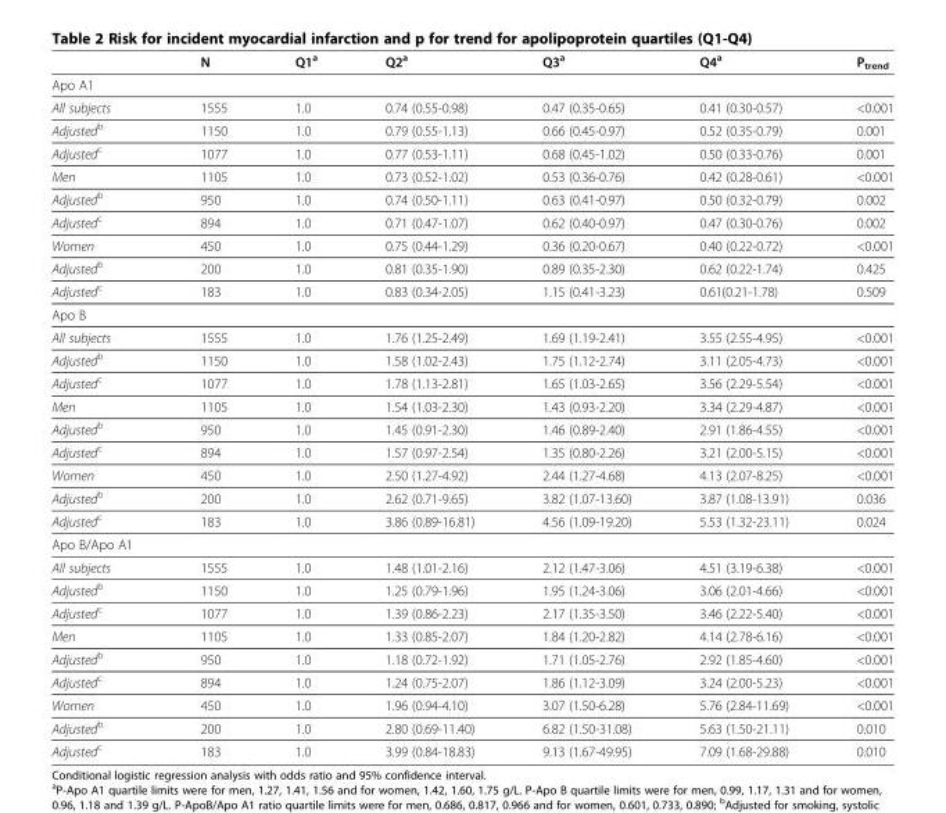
<table><thead><tr><td></td><td>N</td><td>Q1<sup>a</sup></td><td>Q2<sup>a</sup></td><td>Q3<sup>a</sup></td><td>Q4<sup>a</sup></td><td>P<sub>trend</sub></td></tr></thead><tbody><tr><td colspan="7">Apo A1</td></tr><tr><td>All subjects</td><td>1555</td><td>1.0</td><td>0.74 (0.55-0.98)</td><td>0.47 (0.35-0.65)</td><td>0.41 (0.30-0.57)</td><td>&lt;0.001</td></tr><tr><td>Adjusted<sup>b</sup></td><td>1150</td><td>1.0</td><td>0.79 (0.55-1.13)</td><td>0.66 (0.45-0.97)</td><td>0.52 (0.35-0.79)</td><td>0.001</td></tr><tr><td>Adjusted<sup>c</sup></td><td>1077</td><td>1.0</td><td>0.77 (0.53-1.11)</td><td>0.68 (0.45-1.02)</td><td>0.50 (0.33-0.76)</td><td>0.001</td></tr><tr><td>Men</td><td>1105</td><td>1.0</td><td>0.73 (0.52-1.02)</td><td>0.53 (0.36-0.76)</td><td>0.42 (0.28-0.61)</td><td>&lt;0.001</td></tr><tr><td>Adjusted<sup>b</sup></td><td>950</td><td>1.0</td><td>0.74 (0.50-1.11)</td><td>0.63 (0.41-0.97)</td><td>0.50 (0.32-0.79)</td><td>0.002</td></tr><tr><td>Adjusted<sup>c</sup></td><td>894</td><td>1.0</td><td>0.71 (0.47-1.07)</td><td>0.62 (0.40-0.97)</td><td>0.47 (0.30-0.76)</td><td>0.002</td></tr><tr><td>Women</td><td>450</td><td>1.0</td><td>0.75 (0.44-1.29)</td><td>0.36 (0.20-0.67)</td><td>0.40 (0.22-0.72)</td><td>&lt;0.001</td></tr><tr><td>Adjusted<sup>b</sup></td><td>200</td><td>1.0</td><td>0.81 (0.35-1.90)</td><td>0.89 (0.35-2.30)</td><td>0.62 (0.22-1.74)</td><td>0.425</td></tr><tr><td>Adjusted<sup>c</sup></td><td>183</td><td>1.0</td><td>0.83 (0.34-2.05)</td><td>1.15 (0.41-3.23)</td><td>0.61(0.21-1.78)</td><td>0.509</td></tr><tr><td colspan="7">Apo B</td></tr><tr><td>All subjects</td><td>1555</td><td>1.0</td><td>1.76 (1.25-2.49)</td><td>1.69 (1.19-2.41)</td><td>3.55 (2.55-4.95)</td><td>&lt;0.001</td></tr><tr><td>Adjusted<sup>b</sup></td><td>1150</td><td>1.0</td><td>1.58 (1.02-2.43)</td><td>1.75 (1.12-2.74)</td><td>3.11 (2.05-4.73)</td><td>&lt;0.001</td></tr><tr><td>Adjusted<sup>c</sup></td><td>1077</td><td>1.0</td><td>1.78 (1.13-2.81)</td><td>1.65 (1.03-2.65)</td><td>3.56 (2.29-5.54)</td><td>&lt;0.001</td></tr><tr><td>Men</td><td>1105</td><td>1.0</td><td>1.54 (1.03-2.30)</td><td>1.43 (0.93-2.20)</td><td>3.34 (2.29-4.87)</td><td>&lt;0.001</td></tr><tr><td>Adjusted<sup>b</sup></td><td>950</td><td>1.0</td><td>1.45 (0.91-2.30)</td><td>1.46 (0.89-2.40)</td><td>2.91 (1.86-4.55)</td><td>&lt;0.001</td></tr><tr><td>Adjusted<sup>c</sup></td><td>894</td><td>1.0</td><td>1.57 (0.97-2.54)</td><td>1.35 (0.80-2.26)</td><td>3.21 (2.00-5.15)</td><td>&lt;0.001</td></tr><tr><td>Women</td><td>450</td><td>1.0</td><td>2.50 (1.27-4.92)</td><td>2.44 (1.27-4.68)</td><td>4.13 (2.07-8.25)</td><td>&lt;0.001</td></tr><tr><td>Adjusted<sup>b</sup></td><td>200</td><td>1.0</td><td>2.62 (0.71-9.65)</td><td>3.82 (1.07-13.60)</td><td>3.87 (1.08-13.91)</td><td>0.036</td></tr><tr><td>Adjusted<sup>c</sup></td><td>183</td><td>1.0</td><td>3.86 (0.89-16.81)</td><td>4.56 (1.09-19.20)</td><td>5.53 (1.32-23.11)</td><td>0.024</td></tr><tr><td colspan="7">Apo B/Apo A1</td></tr><tr><td>All subjects</td><td>1555</td><td>1.0</td><td>1.48 (1.01-2.16)</td><td>2.12 (1.47-3.06)</td><td>4.51 (3.19-6.38)</td><td>&lt;0.001</td></tr><tr><td>Adjusted<sup>b</sup></td><td>1150</td><td>1.0</td><td>1.25 (0.79-1.96)</td><td>1.95 (1.24-3.06)</td><td>3.06 (2.01-4.66)</td><td>&lt;0.001</td></tr><tr><td>Adjusted<sup>c</sup></td><td>1077</td><td>1.0</td><td>1.39 (0.86-2.23)</td><td>2.17 (1.35-3.50)</td><td>3.46 (2.22-5.40)</td><td>&lt;0.001</td></tr><tr><td>Men</td><td>1105</td><td>1.0</td><td>1.33 (0.85-2.07)</td><td>1.84 (1.20-2.82)</td><td>4.14 (2.78-6.16)</td><td>&lt;0.001</td></tr><tr><td>Adjusted<sup>b</sup></td><td>950</td><td>1.0</td><td>1.18 (0.72-1.92)</td><td>1.71 (1.05-2.76)</td><td>2.92 (1.85-4.60)</td><td>&lt;0.001</td></tr><tr><td>Adjusted<sup>c</sup></td><td>894</td><td>1.0</td><td>1.24 (0.75-2.07)</td><td>1.86 (1.12-3.09)</td><td>3.24 (2.00-5.23)</td><td>&lt;0.001</td></tr><tr><td>Women</td><td>450</td><td>1.0</td><td>1.96 (0.94-4.10)</td><td>3.07 (1.50-6.28)</td><td>5.76 (2.84-11.69)</td><td>&lt;0.001</td></tr><tr><td>Adjusted<sup>b</sup></td><td>200</td><td>1.0</td><td>2.80 (0.69-11.40)</td><td>6.82 (1.50-31.08)</td><td>5.63 (1.50-21.11)</td><td>0.010</td></tr><tr><td>Adjusted<sup>c</sup></td><td>183</td><td>1.0</td><td>3.99 (0.84-18.83)</td><td>9.13 (1.67-49.95)</td><td>7.09 (1.68-29.88)</td><td>0.010</td></tr></tbody></table>